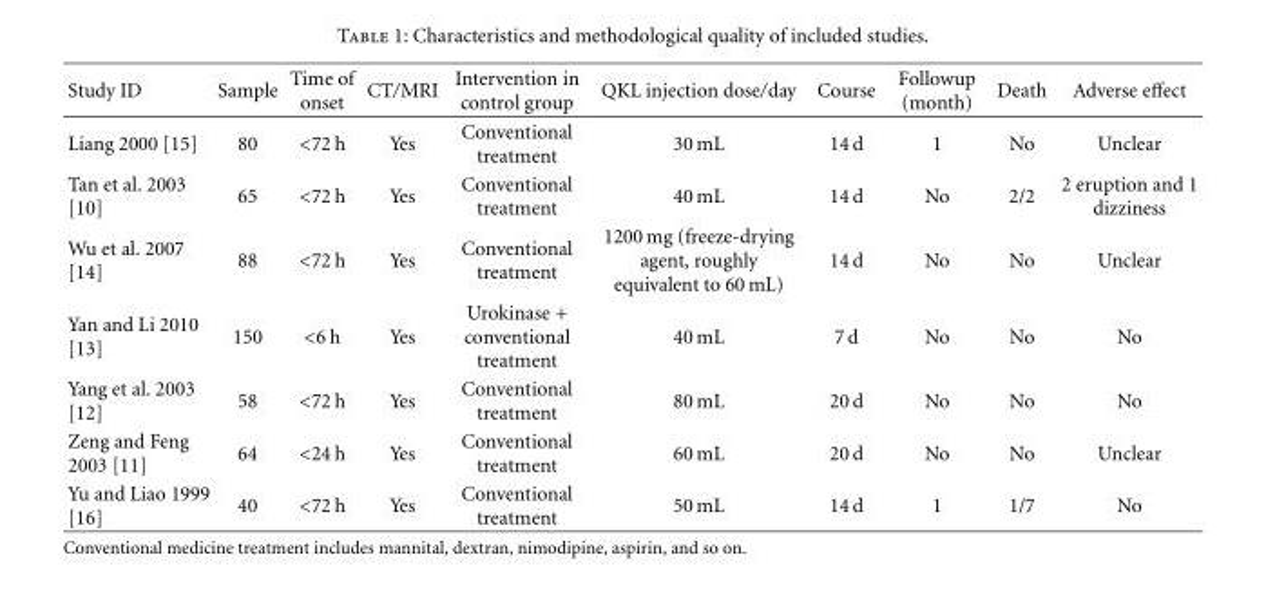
<table><thead><tr><td>Study ID</td><td>Sample</td><td>Time of onset</td><td>CT/MRI</td><td>Intervention in control group</td><td>QKL injection dose/day</td><td>Course</td><td>Followup (month)</td><td>Death</td><td>Adverse effect</td></tr></thead><tbody><tr><td>Liang 2000 [15]</td><td>80</td><td>&lt;72 h</td><td>Yes</td><td>Conventional treatment</td><td>30 mL</td><td>14 d</td><td>1</td><td>No</td><td>Unclear</td></tr><tr><td>Tan et al. 2003 [10]</td><td>65</td><td>&lt;72 h</td><td>Yes</td><td>Conventional treatment</td><td>40 mL</td><td>14 d</td><td>No</td><td>2/2</td><td>2 eruption and 1 dizziness</td></tr><tr><td>Wu et al. 2007 [14]</td><td>88</td><td>&lt;72 h</td><td>Yes</td><td>Conventional treatment</td><td>1200 mg (freeze-drying agent, roughly equivalent to 60 mL)</td><td>14 d</td><td>No</td><td>No</td><td>Unclear</td></tr><tr><td>Yan and Li 2010 [13]</td><td>150</td><td>&lt;6 h</td><td>Yes</td><td>Urokinase + conventional treatment</td><td>40 mL</td><td>7 d</td><td>No</td><td>No</td><td>No</td></tr><tr><td>Yang et al. 2003 [12]</td><td>58</td><td>&lt;72 h</td><td>Yes</td><td>Conventional treatment</td><td>80 mL</td><td>20 d</td><td>No</td><td>No</td><td>No</td></tr><tr><td>Zeng and Feng 2003 [11]</td><td>64</td><td>&lt;24 h</td><td>Yes</td><td>Conventional treatment</td><td>60 mL</td><td>20 d</td><td>No</td><td>No</td><td>Unclear</td></tr><tr><td>Yu and Liao 1999 [16]</td><td>40</td><td>&lt;72 h</td><td>Yes</td><td>Conventional treatment</td><td>50 mL</td><td>14 d</td><td>1</td><td>1/7</td><td>No</td></tr></tbody></table>